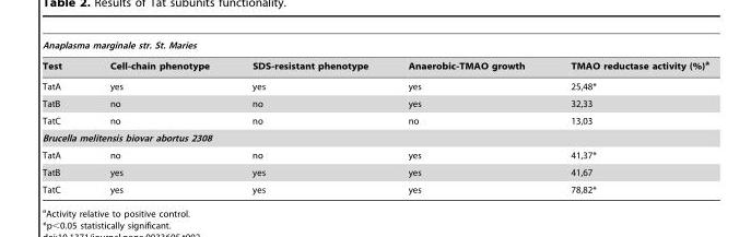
<table><thead><tr><td colspan="5">Anaplasma marginale str. St. Maries</td></tr><tr><td>Test</td><td>Cell-chain phenotype</td><td>SDS-resistant phenotype</td><td>Anaerobic-TMAO growth</td><td>TMAO reductase activity (%)<sup>a</sup></td></tr></thead><tbody><tr><td>TatA</td><td>yes</td><td>yes</td><td>yes</td><td>25,48*</td></tr><tr><td>TatB</td><td>no</td><td>no</td><td>yes</td><td>32,33</td></tr><tr><td>TatC</td><td>no</td><td>no</td><td>no</td><td>13,03</td></tr><tr><td colspan="5">Brucella melitensis biovar abortus 2308</td></tr><tr><td>TatA</td><td>no</td><td>no</td><td>yes</td><td>41,37*</td></tr><tr><td>TatB</td><td>yes</td><td>yes</td><td>yes</td><td>41,67</td></tr><tr><td>TatC</td><td>yes</td><td>yes</td><td>yes</td><td>78,82*</td></tr></tbody></table>